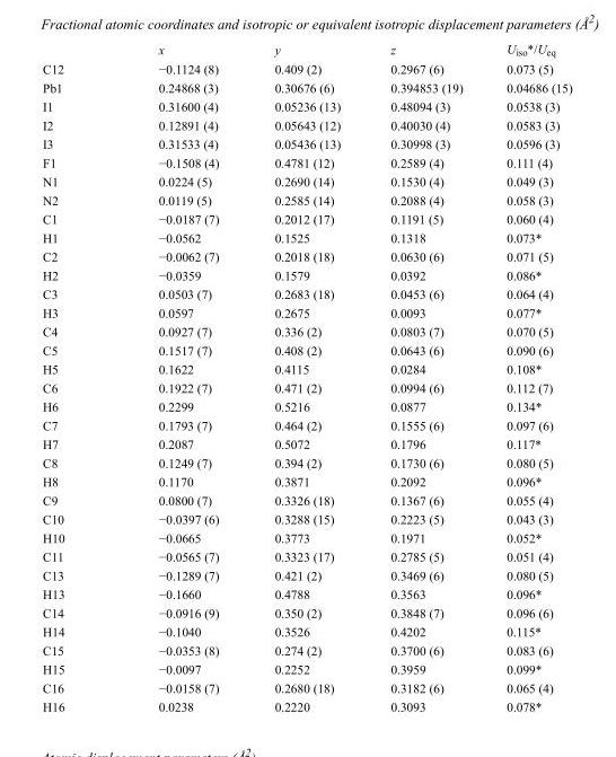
<table><thead><tr><td></td><td>x</td><td>y</td><td>z</td><td>U<sub>iso</sub>*/U<sub>eq</sub></td></tr></thead><tbody><tr><td>C12</td><td>−0.1124 (8)</td><td>0.409 (2)</td><td>0.2967 (6)</td><td>0.073 (5)</td></tr><tr><td>Pb1</td><td>0.24868 (3)</td><td>0.30676 (6)</td><td>0.394853 (19)</td><td>0.04686 (15)</td></tr><tr><td>I1</td><td>0.31600 (4)</td><td>0.05236 (13)</td><td>0.48094 (3)</td><td>0.0538 (3)</td></tr><tr><td>I2</td><td>0.12891 (4)</td><td>0.05643 (12)</td><td>0.40030 (4)</td><td>0.0583 (3)</td></tr><tr><td>I3</td><td>0.31533 (4)</td><td>0.05436 (13)</td><td>0.30998 (3)</td><td>0.0596 (3)</td></tr><tr><td>F1</td><td>−0.1508 (4)</td><td>0.4781 (12)</td><td>0.2589 (4)</td><td>0.111 (4)</td></tr><tr><td>N1</td><td>0.0224 (5)</td><td>0.2690 (14)</td><td>0.1530 (4)</td><td>0.049 (3)</td></tr><tr><td>N2</td><td>0.0119 (5)</td><td>0.2585 (14)</td><td>0.2088 (4)</td><td>0.058 (3)</td></tr><tr><td>C1</td><td>−0.0187 (7)</td><td>0.2012 (17)</td><td>0.1191 (5)</td><td>0.060 (4)</td></tr><tr><td>H1</td><td>−0.0562</td><td>0.1525</td><td>0.1318</td><td>0.073*</td></tr><tr><td>C2</td><td>−0.0062 (7)</td><td>0.2018 (18)</td><td>0.0630 (6)</td><td>0.071 (5)</td></tr><tr><td>H2</td><td>−0.0359</td><td>0.1579</td><td>0.0392</td><td>0.086*</td></tr><tr><td>C3</td><td>0.0503 (7)</td><td>0.2683 (18)</td><td>0.0453 (6)</td><td>0.064 (4)</td></tr><tr><td>H3</td><td>0.0597</td><td>0.2675</td><td>0.0093</td><td>0.077*</td></tr><tr><td>C4</td><td>0.0927 (7)</td><td>0.336 (2)</td><td>0.0803 (7)</td><td>0.070 (5)</td></tr><tr><td>C5</td><td>0.1517 (7)</td><td>0.408 (2)</td><td>0.0643 (6)</td><td>0.090 (6)</td></tr><tr><td>H5</td><td>0.1622</td><td>0.4115</td><td>0.0284</td><td>0.108*</td></tr><tr><td>C6</td><td>0.1922 (7)</td><td>0.471 (2)</td><td>0.0994 (6)</td><td>0.112 (7)</td></tr><tr><td>H6</td><td>0.2299</td><td>0.5216</td><td>0.0877</td><td>0.134*</td></tr><tr><td>C7</td><td>0.1793 (7)</td><td>0.464 (2)</td><td>0.1555 (6)</td><td>0.097 (6)</td></tr><tr><td>H7</td><td>0.2087</td><td>0.5072</td><td>0.1796</td><td>0.117*</td></tr><tr><td>C8</td><td>0.1249 (7)</td><td>0.394 (2)</td><td>0.1730 (6)</td><td>0.080 (5)</td></tr><tr><td>H8</td><td>0.1170</td><td>0.3871</td><td>0.2092</td><td>0.096*</td></tr><tr><td>C9</td><td>0.0800 (7)</td><td>0.3326 (18)</td><td>0.1367 (6)</td><td>0.055 (4)</td></tr><tr><td>C10</td><td>−0.0397 (6)</td><td>0.3288 (15)</td><td>0.2223 (5)</td><td>0.043 (3)</td></tr><tr><td>H10</td><td>−0.0665</td><td>0.3773</td><td>0.1971</td><td>0.052*</td></tr><tr><td>C11</td><td>−0.0565 (7)</td><td>0.3323 (17)</td><td>0.2785 (5)</td><td>0.051 (4)</td></tr><tr><td>C13</td><td>−0.1289 (7)</td><td>0.421 (2)</td><td>0.3469 (6)</td><td>0.080 (5)</td></tr><tr><td>H13</td><td>−0.1660</td><td>0.4788</td><td>0.3563</td><td>0.096*</td></tr><tr><td>C14</td><td>−0.0916 (9)</td><td>0.350 (2)</td><td>0.3848 (7)</td><td>0.096 (6)</td></tr><tr><td>H14</td><td>−0.1040</td><td>0.3526</td><td>0.4202</td><td>0.115*</td></tr><tr><td>C15</td><td>−0.0353 (8)</td><td>0.274 (2)</td><td>0.3700 (6)</td><td>0.083 (6)</td></tr><tr><td>H15</td><td>−0.0097</td><td>0.2252</td><td>0.3959</td><td>0.099*</td></tr><tr><td>C16</td><td>−0.0158 (7)</td><td>0.2680 (18)</td><td>0.3182 (6)</td><td>0.065 (4)</td></tr><tr><td>H16</td><td>0.0238</td><td>0.2220</td><td>0.3093</td><td>0.078*</td></tr></tbody></table>